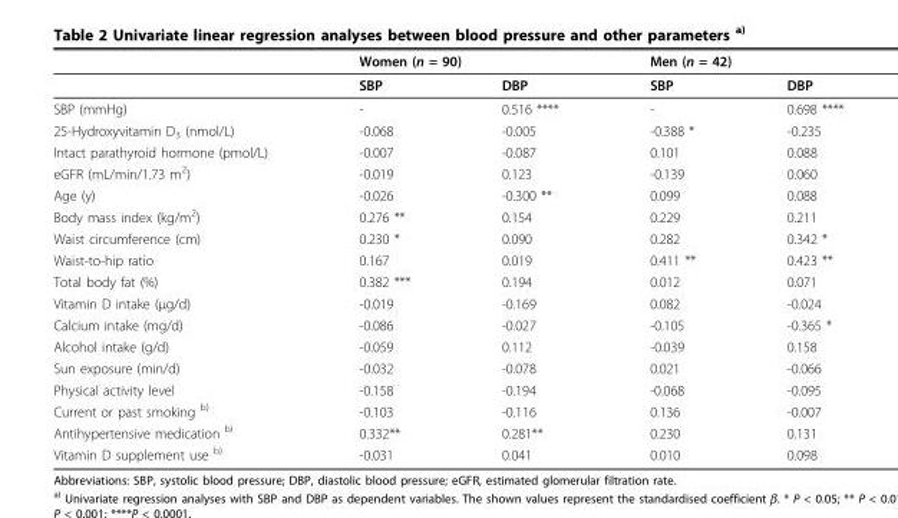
<table><thead><tr><td rowspan="2"></td><td colspan="2">Women (n = 90)</td><td colspan="2">Men (n = 42)</td></tr><tr><td>SBP</td><td>DBP</td><td>SBP</td><td>DBP</td></tr></thead><tbody><tr><td>SBP (mmHg)</td><td>-</td><td>0.516 ****</td><td>-</td><td>0.698 ****</td></tr><tr><td>25-Hydroxyvitamin D<sub>3</sub> (nmol/L)</td><td>-0.068</td><td>-0.005</td><td>-0.388 *</td><td>-0.235</td></tr><tr><td>Intact parathyroid hormone (pmol/L)</td><td>-0.007</td><td>-0.087</td><td>0.101</td><td>0.088</td></tr><tr><td>eGFR (mL/min/1.73 m<sup>2</sup>)</td><td>-0.019</td><td>0.123</td><td>-0.139</td><td>0.060</td></tr><tr><td>Age (y)</td><td>-0.026</td><td>-0.300 **</td><td>0.099</td><td>0.088</td></tr><tr><td>Body mass index (kg/m<sup>2</sup>)</td><td>0.276 **</td><td>0.154</td><td>0.229</td><td>0.211</td></tr><tr><td>Waist circumference (cm)</td><td>0.230 *</td><td>0.090</td><td>0.282</td><td>0.342 *</td></tr><tr><td>Waist-to-hip ratio</td><td>0.167</td><td>0.019</td><td>0.411 **</td><td>0.423 **</td></tr><tr><td>Total body fat (%)</td><td>0.382 ***</td><td>0.194</td><td>0.012</td><td>0.071</td></tr><tr><td>Vitamin D intake (μg/d)</td><td>-0.019</td><td>-0.169</td><td>0.082</td><td>-0.024</td></tr><tr><td>Calcium intake (mg/d)</td><td>-0.086</td><td>-0.027</td><td>-0.105</td><td>-0.365 *</td></tr><tr><td>Alcohol intake (g/d)</td><td>-0.059</td><td>0.112</td><td>-0.039</td><td>0.158</td></tr><tr><td>Sun exposure (min/d)</td><td>-0.032</td><td>-0.078</td><td>0.021</td><td>-0.066</td></tr><tr><td>Physical activity level</td><td>-0.158</td><td>-0.194</td><td>-0.068</td><td>-0.095</td></tr><tr><td>Current or past smoking <sup>b)</sup></td><td>-0.103</td><td>-0.116</td><td>0.136</td><td>-0.007</td></tr><tr><td>Antihypertensive medication <sup>b)</sup></td><td>0.332**</td><td>0.281**</td><td>0.230</td><td>0.131</td></tr><tr><td>Vitamin D supplement use <sup>b)</sup></td><td>-0.031</td><td>0.041</td><td>0.010</td><td>0.098</td></tr></tbody></table>